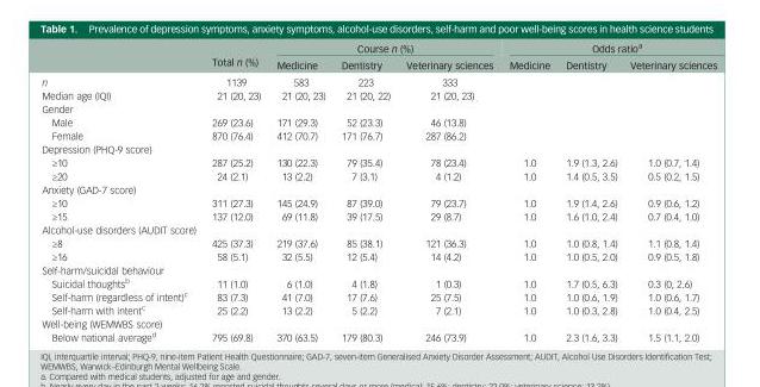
<table><thead><tr><td rowspan="2"></td><td rowspan="2">Total n (%)</td><td colspan="3">Course n (%)</td><td colspan="3">Odds ratio<sup>a</sup></td></tr><tr><td>Medicine</td><td>Dentistry</td><td>Veterinary sciences</td><td>Medicine</td><td>Dentistry</td><td>Veterinary sciences</td></tr></thead><tbody><tr><td>n</td><td>1139</td><td>583</td><td>223</td><td>333</td><td></td><td></td><td></td></tr><tr><td>Median age (IQI)</td><td>21 (20, 23)</td><td>21 (20, 23)</td><td>21 (20, 22)</td><td>21 (20, 23)</td><td></td><td></td><td></td></tr><tr><td colspan="8">Gender</td></tr><tr><td>Male</td><td>269 (23.6)</td><td>171 (29.3)</td><td>52 (23.3)</td><td>46 (13.8)</td><td></td><td></td><td></td></tr><tr><td>Female</td><td>870 (76.4)</td><td>412 (70.7)</td><td>171 (76.7)</td><td>287 (86.2)</td><td></td><td></td><td></td></tr><tr><td colspan="8">Depression (PHQ-9 score)</td></tr><tr><td>≥10</td><td>287 (25.2)</td><td>130 (22.3)</td><td>79 (35.4)</td><td>78 (23.4)</td><td>1.0</td><td>1.9 (1.3, 2.6)</td><td>1.0 (0.7, 1.4)</td></tr><tr><td>≥20</td><td>24 (2.1)</td><td>13 (2.2)</td><td>7 (3.1)</td><td>4 (1.2)</td><td>1.0</td><td>1.4 (0.5, 3.5)</td><td>0.5 (0.2, 1.5)</td></tr><tr><td colspan="8">Anxiety (GAD-7 score)</td></tr><tr><td>≥10</td><td>311 (27.3)</td><td>145 (24.9)</td><td>87 (39.0)</td><td>79 (23.7)</td><td>1.0</td><td>1.9 (1.4, 2.6)</td><td>0.9 (0.6, 1.2)</td></tr><tr><td>≥15</td><td>137 (12.0)</td><td>69 (11.8)</td><td>39 (17.5)</td><td>29 (8.7)</td><td>1.0</td><td>1.6 (1.0, 2.4)</td><td>0.7 (0.4, 1.0)</td></tr><tr><td colspan="8">Alcohol-use disorders (AUDIT score)</td></tr><tr><td>≥8</td><td>425 (37.3)</td><td>219 (37.6)</td><td>85 (38.1)</td><td>121 (36.3)</td><td>1.0</td><td>1.0 (0.8, 1.4)</td><td>1.1 (0.8, 1.4)</td></tr><tr><td>≥16</td><td>58 (5.1)</td><td>32 (5.5)</td><td>12 (5.4)</td><td>14 (4.2)</td><td>1.0</td><td>1.0 (0.5, 2.0)</td><td>0.9 (0.5, 1.8)</td></tr><tr><td colspan="8">Self-harm/suicidal behaviour</td></tr><tr><td>Suicidal thoughts<sup>b</sup></td><td>11 (1.0)</td><td>6 (1.0)</td><td>4 (1.8)</td><td>1 (0.3)</td><td>1.0</td><td>1.7 (0.5, 6.3)</td><td>0.3 (0, 2.6)</td></tr><tr><td>Self-harm (regardless of intent)<sup>c</sup></td><td>83 (7.3)</td><td>41 (7.0)</td><td>17 (7.6)</td><td>25 (7.5)</td><td>1.0</td><td>1.0 (0.6, 1.9)</td><td>1.0 (0.6, 1.7)</td></tr><tr><td>Self-harm with intent<sup>c</sup></td><td>25 (2.2)</td><td>13 (2.2)</td><td>5 (2.2)</td><td>7 (2.1)</td><td>1.0</td><td>1.0 (0.3, 2.8)</td><td>1.0 (0.4, 2.5)</td></tr><tr><td colspan="8">Well-being (WEMWBS score)</td></tr><tr><td>Below national average<sup>d</sup></td><td>795 (69.8)</td><td>370 (63.5)</td><td>179 (80.3)</td><td>246 (73.9)</td><td>1.0</td><td>2.3 (1.6, 3.3)</td><td>1.5 (1.1, 2.0)</td></tr></tbody></table>